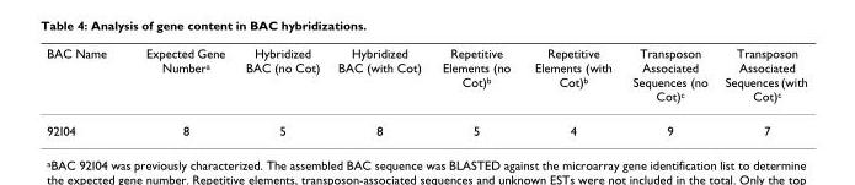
<table><thead><tr><td>BAC Name</td><td>Expected Gene Number<sup>a</sup></td><td>Hybridized BAC (no Cot)</td><td>Hybridized BAC (with Cot)</td><td>Repetitive Elements (no Cot)<sup>b</sup></td><td>Repetitive Elements (with Cot)<sup>b</sup></td><td>Transposon Associated Sequences (no Cot)<sup>c</sup></td><td>Transposon Associated Sequences (with Cot)<sup>c</sup></td></tr></thead><tbody><tr><td>92I04</td><td>8</td><td>5</td><td>8</td><td>5</td><td>4</td><td>9</td><td>7</td></tr></tbody></table>